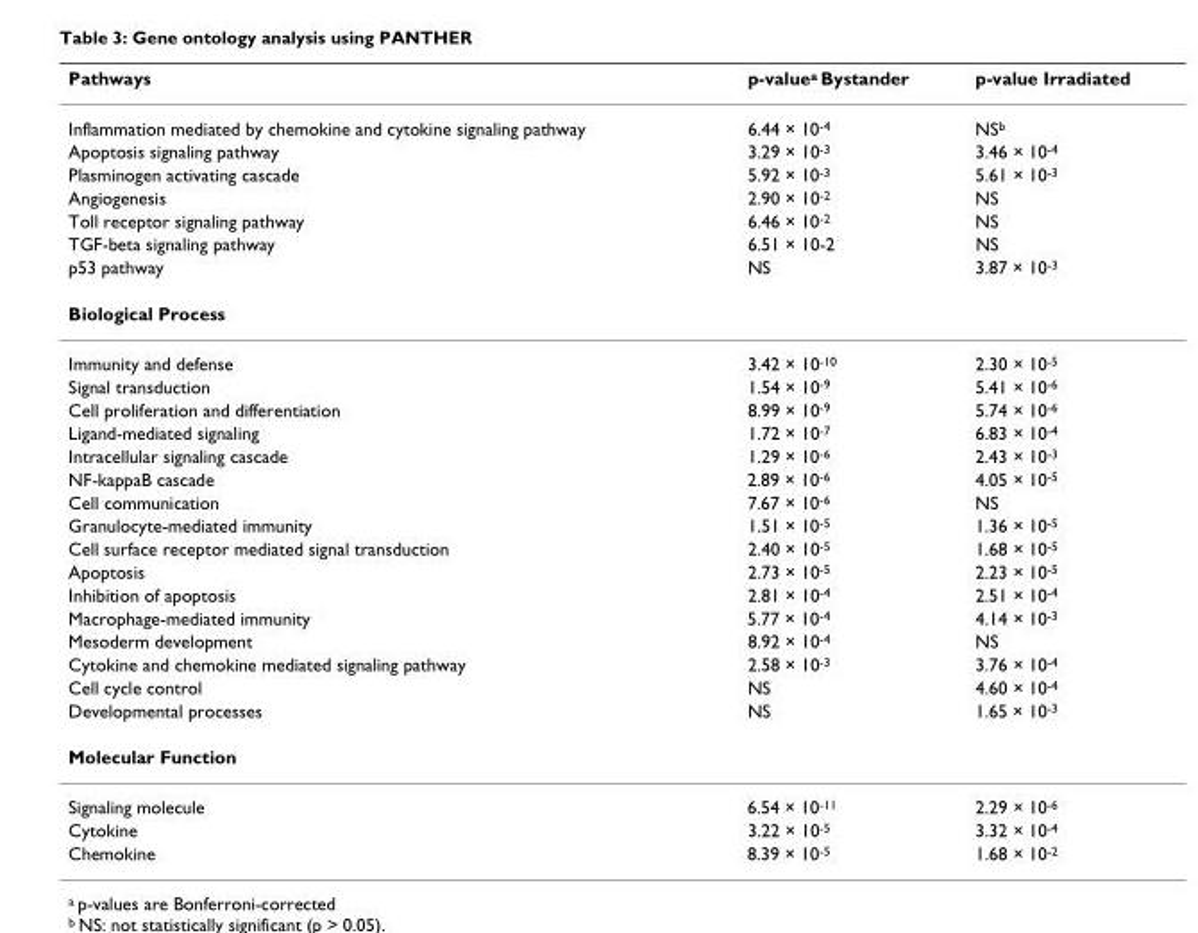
<table><thead><tr><td>Pathways</td><td>p-value<sup>a</sup> Bystander</td><td>p-value Irradiated</td></tr></thead><tbody><tr><td>Inflammation mediated by chemokine and cytokine signaling pathway</td><td>6.44 × 10<sup>-4</sup></td><td>NS<sup>b</sup></td></tr><tr><td>Apoptosis signaling pathway</td><td>3.29 × 10<sup>-3</sup></td><td>3.46 × 10<sup>-4</sup></td></tr><tr><td>Plasminogen activating cascade</td><td>5.92 × 10<sup>-3</sup></td><td>5.61 × 10<sup>-3</sup></td></tr><tr><td>Angiogenesis</td><td>2.90 × 10<sup>-2</sup></td><td>NS</td></tr><tr><td>Toll receptor signaling pathway</td><td>6.46 × 10<sup>-2</sup></td><td>NS</td></tr><tr><td>TGF-beta signaling pathway</td><td>6.51 × 10-2</td><td>NS</td></tr><tr><td>p53 pathway</td><td>NS</td><td>3.87 × 10<sup>-3</sup></td></tr><tr><td colspan="3">Biological Process</td></tr><tr><td>Immunity and defense</td><td>3.42 × 10<sup>-10</sup></td><td>2.30 × 10<sup>-5</sup></td></tr><tr><td>Signal transduction</td><td>1.54 × 10<sup>-9</sup></td><td>5.41 × 10<sup>-6</sup></td></tr><tr><td>Cell proliferation and differentiation</td><td>8.99 × 10<sup>-9</sup></td><td>5.74 × 10<sup>-6</sup></td></tr><tr><td>Ligand-mediated signaling</td><td>1.72 × 10<sup>-7</sup></td><td>6.83 × 10<sup>-4</sup></td></tr><tr><td>Intracellular signaling cascade</td><td>1.29 × 10<sup>-6</sup></td><td>2.43 × 10<sup>-3</sup></td></tr><tr><td>NF-kappaB cascade</td><td>2.89 × 10<sup>-6</sup></td><td>4.05 × 10<sup>-5</sup></td></tr><tr><td>Cell communication</td><td>7.67 × 10<sup>-6</sup></td><td>NS</td></tr><tr><td>Granulocyte-mediated immunity</td><td>1.51 × 10<sup>-5</sup></td><td>1.36 × 10<sup>-5</sup></td></tr><tr><td>Cell surface receptor mediated signal transduction</td><td>2.40 × 10<sup>-5</sup></td><td>1.68 × 10<sup>-5</sup></td></tr><tr><td>Apoptosis</td><td>2.73 × 10<sup>-5</sup></td><td>2.23 × 10<sup>-5</sup></td></tr><tr><td>Inhibition of apoptosis</td><td>2.81 × 10<sup>-4</sup></td><td>2.51 × 10<sup>-4</sup></td></tr><tr><td>Macrophage-mediated immunity</td><td>5.77 × 10<sup>-4</sup></td><td>4.14 × 10<sup>-3</sup></td></tr><tr><td>Mesoderm development</td><td>8.92 × 10<sup>-4</sup></td><td>NS</td></tr><tr><td>Cytokine and chemokine mediated signaling pathway</td><td>2.58 × 10<sup>-3</sup></td><td>3.76 × 10<sup>-4</sup></td></tr><tr><td>Cell cycle control</td><td>NS</td><td>4.60 × 10<sup>-4</sup></td></tr><tr><td>Developmental processes</td><td>NS</td><td>1.65 × 10<sup>-3</sup></td></tr><tr><td colspan="3">Molecular Function</td></tr><tr><td>Signaling molecule</td><td>6.54 × 10<sup>-11</sup></td><td>2.29 × 10<sup>-6</sup></td></tr><tr><td>Cytokine</td><td>3.22 × 10<sup>-5</sup></td><td>3.32 × 10<sup>-4</sup></td></tr><tr><td>Chemokine</td><td>8.39 × 10<sup>-5</sup></td><td>1.68 × 10<sup>-2</sup></td></tr></tbody></table>